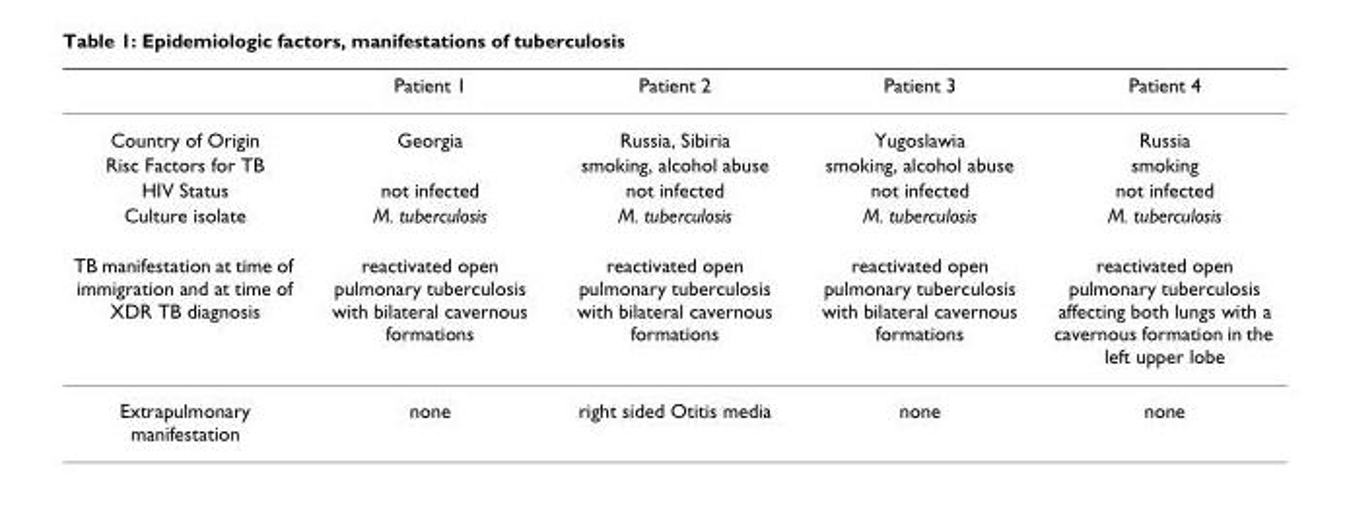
<table><thead><tr><td></td><td>Patient 1</td><td>Patient 2</td><td>Patient 3</td><td>Patient 4</td></tr></thead><tbody><tr><td>Country of Origin</td><td>Georgia</td><td>Russia, Sibiria</td><td>Yugoslawia</td><td>Russia</td></tr><tr><td>Risc Factors for TB</td><td></td><td>smoking, alcohol abuse</td><td>smoking, alcohol abuse</td><td>smoking</td></tr><tr><td>HIV Status</td><td>not infected</td><td>not infected</td><td>not infected</td><td>not infected</td></tr><tr><td>Culture isolate</td><td>M. tuberculosis</td><td>M. tuberculosis</td><td>M. tuberculosis</td><td>M. tuberculosis</td></tr><tr><td>TB manifestation at time of immigration and at time of XDR TB diagnosis</td><td>reactivated open pulmonary tuberculosis with bilateral cavernous formations</td><td>reactivated open pulmonary tuberculosis with bilateral cavernous formations</td><td>reactivated open pulmonary tuberculosis with bilateral cavernous formations</td><td>reactivated open pulmonary tuberculosis affecting both lungs with a cavernous formation in the left upper lobe</td></tr><tr><td>Extrapulmonary manifestation</td><td>none</td><td>right sided Otitis media</td><td>none</td><td>none</td></tr></tbody></table>